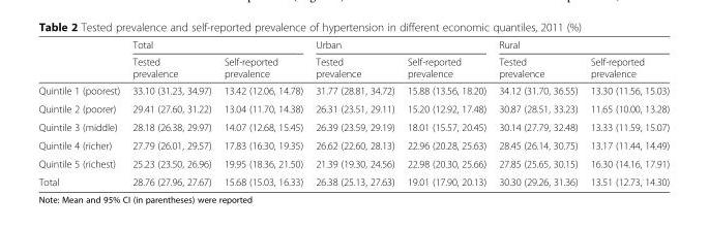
<table><thead><tr><td rowspan="2"></td><td colspan="2">Total</td><td colspan="2">Urban</td><td colspan="2">Rural</td></tr><tr><td>Tested prevalence</td><td>Self-reported prevalence</td><td>Tested prevalence</td><td>Self-reported prevalence</td><td>Tested prevalence</td><td>Self-reported prevalence</td></tr></thead><tbody><tr><td>Quintile 1 (poorest)</td><td>33.10 (31.23, 34.97)</td><td>13.42 (12.06, 14.78)</td><td>31.77 (28.81, 34.72)</td><td>15.88 (13.56, 18.20)</td><td>34.12 (31.70, 36.55)</td><td>13.30 (11.56, 15.03)</td></tr><tr><td>Quintile 2 (poorer)</td><td>29.41 (27.60, 31.22)</td><td>13.04 (11.70, 14.38)</td><td>26.31 (23.51, 29.11)</td><td>15.20 (12.92, 17.48)</td><td>30.87 (28.51, 33.23)</td><td>11.65 (10.00, 13.28)</td></tr><tr><td>Quintile 3 (middle)</td><td>28.18 (26.38, 29.97)</td><td>14.07 (12.68, 15.45)</td><td>26.39 (23.59, 29.19)</td><td>18.01 (15.57, 20.45)</td><td>30.14 (27.79, 32.48)</td><td>13.33 (11.59, 15.07)</td></tr><tr><td>Quintile 4 (richer)</td><td>27.79 (26.01, 29.57)</td><td>17.83 (16.30, 19.35)</td><td>26.62 (22.60, 28.13)</td><td>22.96 (20.28, 25.63)</td><td>28.45 (26.14, 30.75)</td><td>13.17 (11.44, 14.49)</td></tr><tr><td>Quintile 5 (richest)</td><td>25.23 (23.50, 26.96)</td><td>19.95 (18.36, 21.50)</td><td>21.39 (19.30, 24.56)</td><td>22.98 (20.30, 25.66)</td><td>27.85 (25.65, 30.15)</td><td>16.30 (14.16, 17.91)</td></tr><tr><td>Total</td><td>28.76 (27.96, 27.67)</td><td>15.68 (15.03, 16.33)</td><td>26.38 (25.13, 27.63)</td><td>19.01 (17.90, 20.13)</td><td>30.30 (29.26, 31.36)</td><td>13.51 (12.73, 14.30)</td></tr></tbody></table>